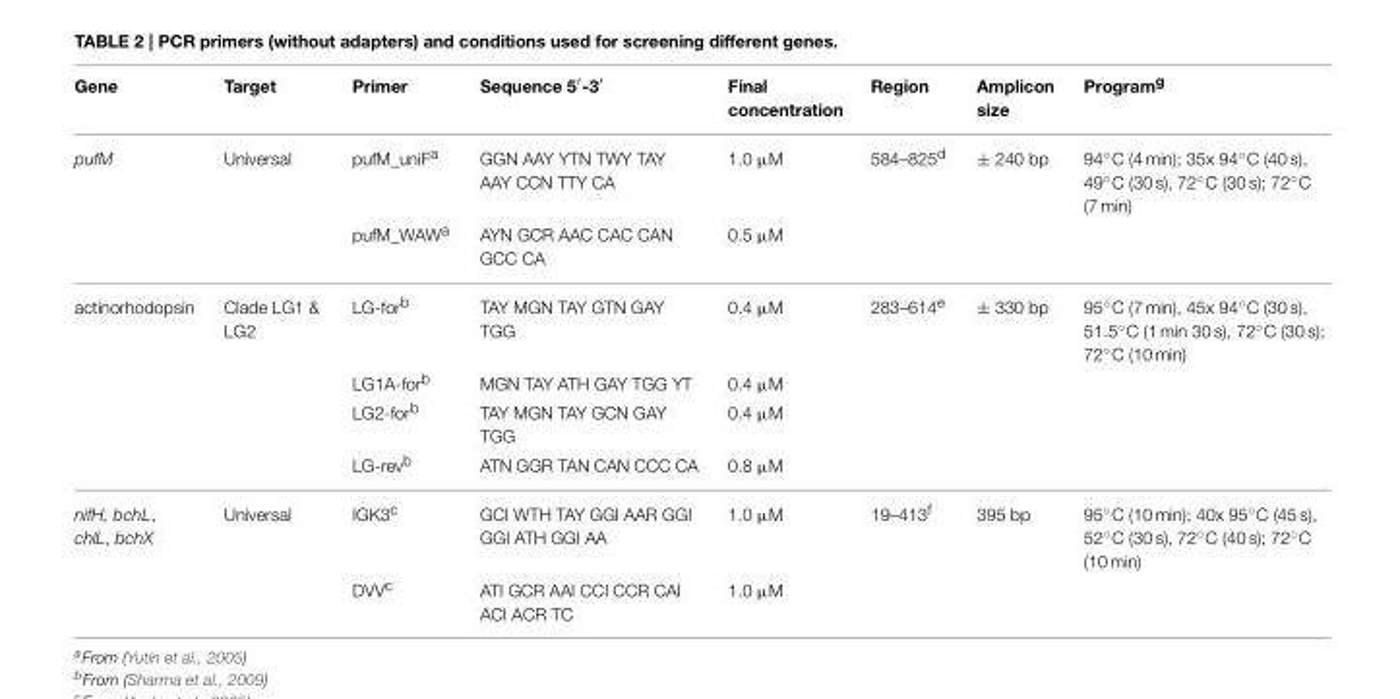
<table><thead><tr><td>Gene</td><td>Target</td><td>Primer</td><td>Sequence 5′-3′</td><td>Final concentration</td><td>Region</td><td>Amplicon size</td><td>Program<sup>g</sup></td></tr></thead><tbody><tr><td rowspan="2">pufM</td><td>Universal</td><td>pufM_uniF<sup>a</sup></td><td>GGN AAY YTN TWY TAY AAY CCN TTY CA</td><td>1.0 µM</td><td>584–825<sup>d</sup></td><td>± 240 bp</td><td>94◦C (4 min); 35x 94◦C (40 s), 49◦C (30 s), 72◦C (30 s); 72◦C (7 min)</td></tr><tr><td></td><td>pufM_WAW<sup>a</sup></td><td>AYN GCR AAC CAC CAN GCC CA</td><td>0.5 µM</td><td></td><td></td><td></td></tr><tr><td rowspan="4">actinorhodopsin</td><td>Clade LG1 &amp; LG2</td><td>LG-for<sup>b</sup></td><td>TAY MGN TAY GTN GAY TGG</td><td>0.4 µM</td><td>283–614<sup>e</sup></td><td>± 330 bp</td><td>95◦C (7 min), 45x 94◦C (30 s), 51.5◦C (1 min 30 s), 72◦C (30 s); 72◦C (10 min)</td></tr><tr><td></td><td>LG1A-for<sup>b</sup></td><td>MGN TAY ATH GAY TGG YT</td><td>0.4 µM</td><td></td><td></td><td></td></tr><tr><td></td><td>LG2-for<sup>b</sup></td><td>TAY MGN TAY GCN GAY TGG</td><td>0.4 µM</td><td></td><td></td><td></td></tr><tr><td></td><td>LG-rev<sup>b</sup></td><td>ATN GGR TAN CAN CCC CA</td><td>0.8 µM</td><td></td><td></td><td></td></tr><tr><td rowspan="2">nifH, bchL, chlL, bchX</td><td>Universal</td><td>IGK3<sup>c</sup></td><td>GCI WTH TAY GGI AAR GGI GGI ATH GGI AA</td><td>1.0 µM</td><td>19–413<sup>f</sup></td><td>395 bp</td><td>95◦C (10 min); 40x 95◦C (45 s), 52◦C (30 s), 72◦C (40 s); 72◦C (10 min)</td></tr><tr><td></td><td>DVV<sup>c</sup></td><td>ATI GCR AAI CCI CCR CAI ACI ACR TC</td><td>1.0 µM</td><td></td><td></td><td></td></tr></tbody></table>